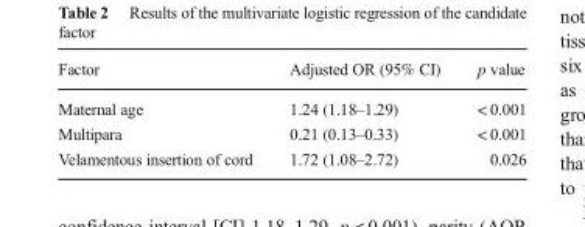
<table><thead><tr><td>Factor</td><td>Adjusted OR (95% CI)</td><td>p value</td></tr></thead><tbody><tr><td>Maternal age</td><td>1.24 (1.18–1.29)</td><td>&lt; 0.001</td></tr><tr><td>Multipara</td><td>0.21 (0.13–0.33)</td><td>&lt; 0.001</td></tr><tr><td>Velamentous insertion of cord</td><td>1.72 (1.08–2.72)</td><td>0.026</td></tr></tbody></table>